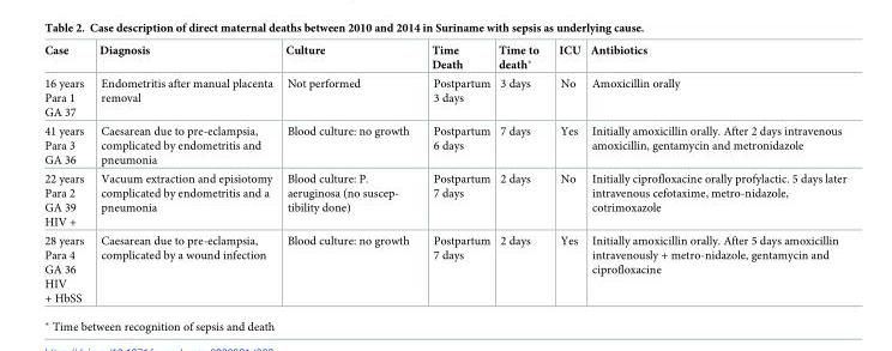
<table><thead><tr><td>Case</td><td>Diagnosis</td><td>Culture</td><td>Time Death</td><td>Time to death*</td><td>ICU</td><td>Antibiotics</td></tr></thead><tbody><tr><td>16 years Para 1 GA 37</td><td>Endometritis after manual placenta removal</td><td>Not performed</td><td>Postpartum 3 days</td><td>3 days</td><td>No</td><td>Amoxicillin orally</td></tr><tr><td>41 years Para 3 GA 36</td><td>Caesarean due to pre-eclampsia, complicated by endometritis and pneumonia</td><td>Blood culture: no growth</td><td>Postpartum 6 days</td><td>7 days</td><td>Yes</td><td>Initially amoxicillin orally. After 2 days intravenous amoxicillin, gentamycin and metronidazole</td></tr><tr><td>22 years Para 2 GA 39 HIV +</td><td>Vacuum extraction and episiotomy complicated by endometritis and a pneumonia</td><td>Blood culture: P. aeruginosa (no suscep- tibility done)</td><td>Postpartum 7 days</td><td>2 days</td><td>No</td><td>Initially ciprofloxacine orally profylactic. 5 days later intravenous cefotaxime, metro-nidazole, cotrimoxazole</td></tr><tr><td>28 years Para 4 GA 36 HIV + HbSS</td><td>Caesarean due to pre-eclampsia, complicated by a wound infection</td><td>Blood culture: no growth</td><td>Postpartum 7 days</td><td>2 days</td><td>Yes</td><td>Initially amoxicillin orally. After 5 days amoxicillin intravenously + metro-nidazole, gentamycin and ciprofloxacine</td></tr></tbody></table>